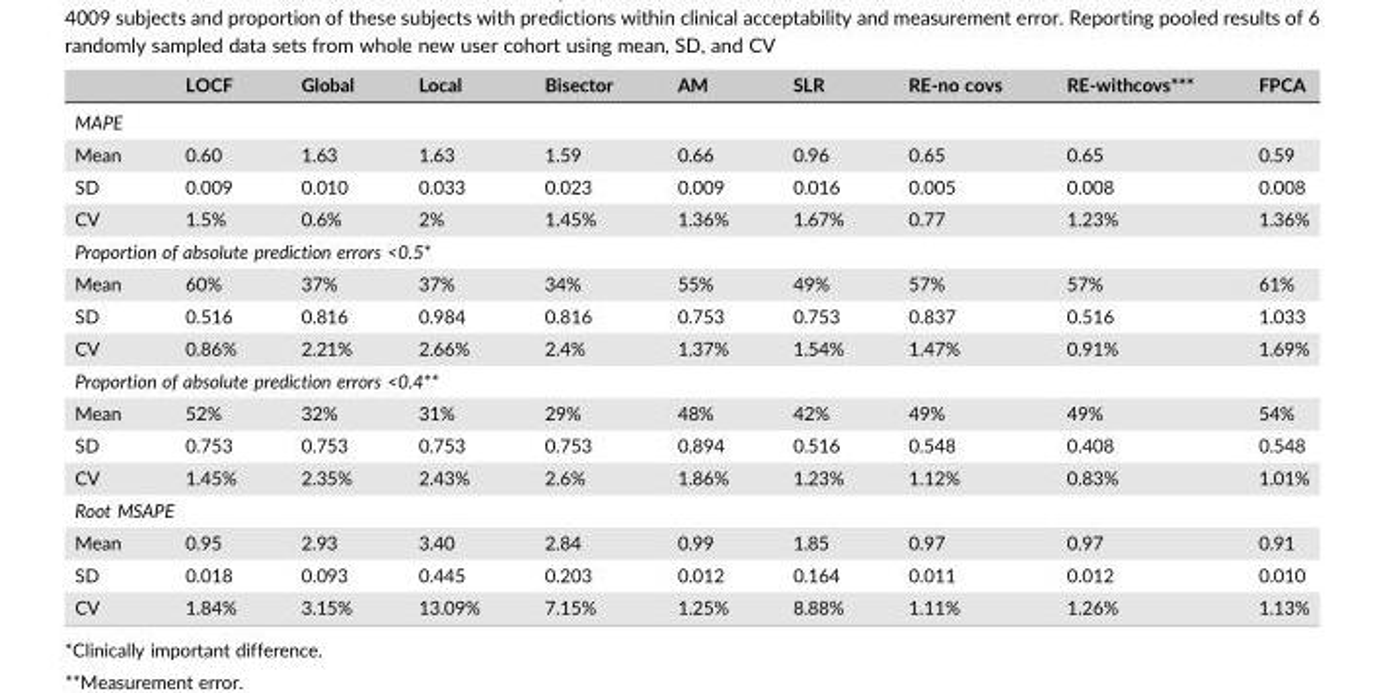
<table><thead><tr><td></td><td>LOCF</td><td>Global</td><td>Local</td><td>Bisector</td><td>AM</td><td>SLR</td><td>RE‐no covs</td><td>RE‐withcovs***</td><td>FPCA</td></tr></thead><tbody><tr><td colspan="10">MAPE</td></tr><tr><td>Mean</td><td>0.60</td><td>1.63</td><td>1.63</td><td>1.59</td><td>0.66</td><td>0.96</td><td>0.65</td><td>0.65</td><td>0.59</td></tr><tr><td>SD</td><td>0.009</td><td>0.010</td><td>0.033</td><td>0.023</td><td>0.009</td><td>0.016</td><td>0.005</td><td>0.008</td><td>0.008</td></tr><tr><td>CV</td><td>1.5%</td><td>0.6%</td><td>2%</td><td>1.45%</td><td>1.36%</td><td>1.67%</td><td>0.77</td><td>1.23%</td><td>1.36%</td></tr><tr><td colspan="10">Proportion of absolute prediction errors &lt;0.5*</td></tr><tr><td>Mean</td><td>60%</td><td>37%</td><td>37%</td><td>34%</td><td>55%</td><td>49%</td><td>57%</td><td>57%</td><td>61%</td></tr><tr><td>SD</td><td>0.516</td><td>0.816</td><td>0.984</td><td>0.816</td><td>0.753</td><td>0.753</td><td>0.837</td><td>0.516</td><td>1.033</td></tr><tr><td>CV</td><td>0.86%</td><td>2.21%</td><td>2.66%</td><td>2.4%</td><td>1.37%</td><td>1.54%</td><td>1.47%</td><td>0.91%</td><td>1.69%</td></tr><tr><td colspan="10">Proportion of absolute prediction errors &lt;0.4**</td></tr><tr><td>Mean</td><td>52%</td><td>32%</td><td>31%</td><td>29%</td><td>48%</td><td>42%</td><td>49%</td><td>49%</td><td>54%</td></tr><tr><td>SD</td><td>0.753</td><td>0.753</td><td>0.753</td><td>0.753</td><td>0.894</td><td>0.516</td><td>0.548</td><td>0.408</td><td>0.548</td></tr><tr><td>CV</td><td>1.45%</td><td>2.35%</td><td>2.43%</td><td>2.6%</td><td>1.86%</td><td>1.23%</td><td>1.12%</td><td>0.83%</td><td>1.01%</td></tr><tr><td colspan="10">Root MSAPE</td></tr><tr><td>Mean</td><td>0.95</td><td>2.93</td><td>3.40</td><td>2.84</td><td>0.99</td><td>1.85</td><td>0.97</td><td>0.97</td><td>0.91</td></tr><tr><td>SD</td><td>0.018</td><td>0.093</td><td>0.445</td><td>0.203</td><td>0.012</td><td>0.164</td><td>0.011</td><td>0.012</td><td>0.010</td></tr><tr><td>CV</td><td>1.84%</td><td>3.15%</td><td>13.09%</td><td>7.15%</td><td>1.25%</td><td>8.88%</td><td>1.11%</td><td>1.26%</td><td>1.13%</td></tr></tbody></table>